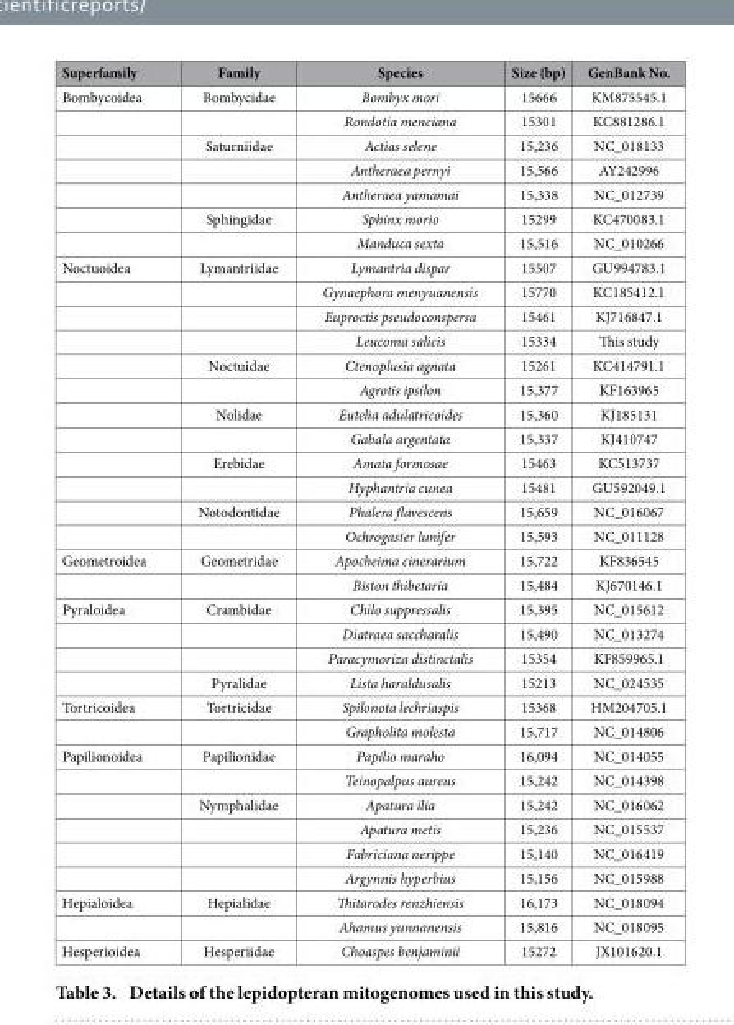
<table><thead><tr><td>Superfamily</td><td>Family</td><td>Species</td><td>Size (bp)</td><td>GenBank No.</td></tr></thead><tbody><tr><td rowspan="7">Bombycoidea</td><td>Bombycidae</td><td>Bombyx mori</td><td>15666</td><td>KM875545.1</td></tr><tr><td></td><td>Rondotia menciana</td><td>15301</td><td>KC881286.1</td></tr><tr><td>Saturniidae</td><td>Actias selene</td><td>15,236</td><td>NC_018133</td></tr><tr><td></td><td>Antheraea pernyi</td><td>15,566</td><td>AY242996</td></tr><tr><td></td><td>Antheraea yamamai</td><td>15,338</td><td>NC_012739</td></tr><tr><td>Sphingidae</td><td>Sphinx morio</td><td>15299</td><td>KC470083.1</td></tr><tr><td></td><td>Manduca sexta</td><td>15,516</td><td>NC_010266</td></tr><tr><td rowspan="12">Noctuoidea</td><td>Lymantriidae</td><td>Lymantria dispar</td><td>15507</td><td>GU994783.1</td></tr><tr><td></td><td>Gynaephora menyuanensis</td><td>15770</td><td>KC185412.1</td></tr><tr><td></td><td>Euproctis pseudoconspersa</td><td>15461</td><td>KJ716847.1</td></tr><tr><td></td><td>Leucoma salicis</td><td>15334</td><td>This study</td></tr><tr><td>Noctuidae</td><td>Ctenoplusia agnata</td><td>15261</td><td>KC414791.1</td></tr><tr><td></td><td>Agrotis ipsilon</td><td>15,377</td><td>KF163965</td></tr><tr><td>Nolidae</td><td>Eutelia adulatricoides</td><td>15,360</td><td>KJ185131</td></tr><tr><td></td><td>Gabala argentata</td><td>15,337</td><td>KJ410747</td></tr><tr><td>Erebidae</td><td>Amata formosae</td><td>15463</td><td>KC513737</td></tr><tr><td></td><td>Hyphantria cunea</td><td>15481</td><td>GU592049.1</td></tr><tr><td>Notodontidae</td><td>Phalera flavescens</td><td>15,659</td><td>NC_016067</td></tr><tr><td></td><td>Ochrogaster lunifer</td><td>15,593</td><td>NC_011128</td></tr><tr><td rowspan="2">Geometroidea</td><td>Geometridae</td><td>Apocheima cinerarium</td><td>15,722</td><td>KF836545</td></tr><tr><td></td><td>Biston thibetaria</td><td>15,484</td><td>KJ670146.1</td></tr><tr><td rowspan="4">Pyraloidea</td><td>Crambidae</td><td>Chilo suppressalis</td><td>15,395</td><td>NC_015612</td></tr><tr><td></td><td>Diatraea saccharalis</td><td>15,490</td><td>NC_013274</td></tr><tr><td></td><td>Paracymoriza distinctalis</td><td>15354</td><td>KF859965.1</td></tr><tr><td>Pyralidae</td><td>Lista haraldusalis</td><td>15213</td><td>NC_024535</td></tr><tr><td rowspan="2">Tortricoidea</td><td>Tortricidae</td><td>Spilonota lechriaspis</td><td>15368</td><td>HM204705.1</td></tr><tr><td></td><td>Grapholita molesta</td><td>15,717</td><td>NC_014806</td></tr><tr><td rowspan="6">Papilionoidea</td><td>Papilionidae</td><td>Papilio maraho</td><td>16,094</td><td>NC_014055</td></tr><tr><td></td><td>Teinopalpus aureus</td><td>15,242</td><td>NC_014398</td></tr><tr><td>Nymphalidae</td><td>Apatura ilia</td><td>15,242</td><td>NC_016062</td></tr><tr><td></td><td>Apatura metis</td><td>15,236</td><td>NC_015537</td></tr><tr><td></td><td>Fabriciana nerippe</td><td>15,140</td><td>NC_016419</td></tr><tr><td></td><td>Argynnis hyperbius</td><td>15,156</td><td>NC_015988</td></tr><tr><td rowspan="2">Hepialoidea</td><td>Hepialidae</td><td>Thitarodes renzhiensis</td><td>16,173</td><td>NC_018094</td></tr><tr><td></td><td>Ahamus yunnanensis</td><td>15,816</td><td>NC_018095</td></tr><tr><td>Hesperioidea</td><td>Hesperiidae</td><td>Choaspes benjaminii</td><td>15272</td><td>JX101620.1</td></tr></tbody></table>